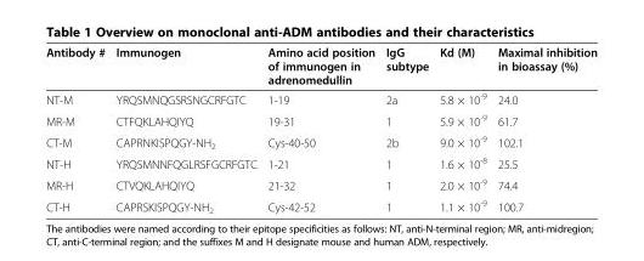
<table><thead><tr><td>Antibody #</td><td>Immunogen</td><td>Amino acid position of immunogen in adrenomedullin</td><td>IgG subtype</td><td>Kd (M)</td><td>Maximal inhibition in bioassay (%)</td></tr></thead><tbody><tr><td>NT-M</td><td>YRQSMNQGSRSNGCRFGTC</td><td>1-19</td><td>2a</td><td>5.8 × 10<sup>-9</sup></td><td>24.0</td></tr><tr><td>MR-M</td><td>CTFQKLAHQIYQ</td><td>19-31</td><td>1</td><td>5.9 × 10<sup>-9</sup></td><td>61.7</td></tr><tr><td>CT-M</td><td>CAPRNKISPQGY-NH<sub>2</sub></td><td>Cys-40-50</td><td>2b</td><td>9.0 × 10<sup>-9</sup></td><td>102.1</td></tr><tr><td>NT-H</td><td>YRQSMNNFQGLRSFGCRFGTC</td><td>1-21</td><td>1</td><td>1.6 × 10<sup>-8</sup></td><td>25.5</td></tr><tr><td>MR-H</td><td>CTVQKLAHQIYQ</td><td>21-32</td><td>1</td><td>2.0 × 10<sup>-9</sup></td><td>74.4</td></tr><tr><td>CT-H</td><td>CAPRSKISPQGY-NH<sub>2</sub></td><td>Cys-42-52</td><td>1</td><td>1.1 × 10<sup>-9</sup></td><td>100.7</td></tr></tbody></table>